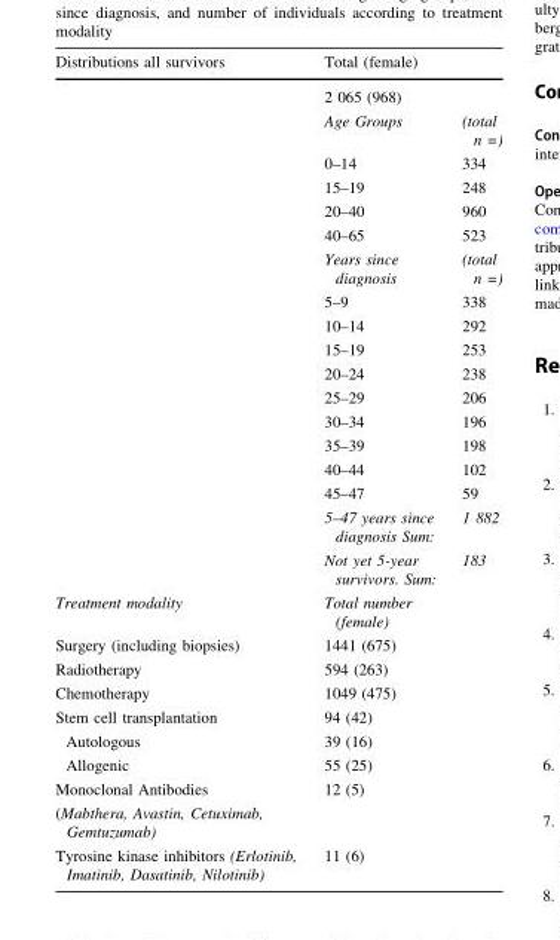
<table><thead><tr><td>Distributions all survivors</td><td>Total (female)</td><td></td></tr></thead><tbody><tr><td></td><td>2 065 (968)</td><td></td></tr><tr><td></td><td>Age Groups</td><td>(total n =)</td></tr><tr><td></td><td>0–14</td><td>334</td></tr><tr><td></td><td>15–19</td><td>248</td></tr><tr><td></td><td>20–40</td><td>960</td></tr><tr><td></td><td>40–65</td><td>523</td></tr><tr><td></td><td>Years since diagnosis</td><td>(total n =)</td></tr><tr><td></td><td>5–9</td><td>338</td></tr><tr><td></td><td>10–14</td><td>292</td></tr><tr><td></td><td>15–19</td><td>253</td></tr><tr><td></td><td>20–24</td><td>238</td></tr><tr><td></td><td>25–29</td><td>206</td></tr><tr><td></td><td>30–34</td><td>196</td></tr><tr><td></td><td>35–39</td><td>198</td></tr><tr><td></td><td>40–44</td><td>102</td></tr><tr><td></td><td>45–47</td><td>59</td></tr><tr><td></td><td>5–47 years since diagnosis Sum:</td><td>1 882</td></tr><tr><td></td><td>Not yet 5-year survivors. Sum:</td><td>183</td></tr><tr><td>Treatment modality</td><td>Total number (female)</td><td></td></tr><tr><td>Surgery (including biopsies)</td><td>1441 (675)</td><td></td></tr><tr><td>Radiotherapy</td><td>594 (263)</td><td></td></tr><tr><td>Chemotherapy</td><td>1049 (475)</td><td></td></tr><tr><td>Stem cell transplantation</td><td>94 (42)</td><td></td></tr><tr><td>Autologous</td><td>39 (16)</td><td></td></tr><tr><td>Allogenic</td><td>55 (25)</td><td></td></tr><tr><td>Monoclonal Antibodies (Mabthera, Avastin, Cetuximab, Gemtuzumab)</td><td>12 (5)</td><td></td></tr><tr><td>Tyrosine kinase inhibitors (Erlotinib, Imatinib, Dasatinib, Nilotinib)</td><td>11 (6)</td><td></td></tr></tbody></table>